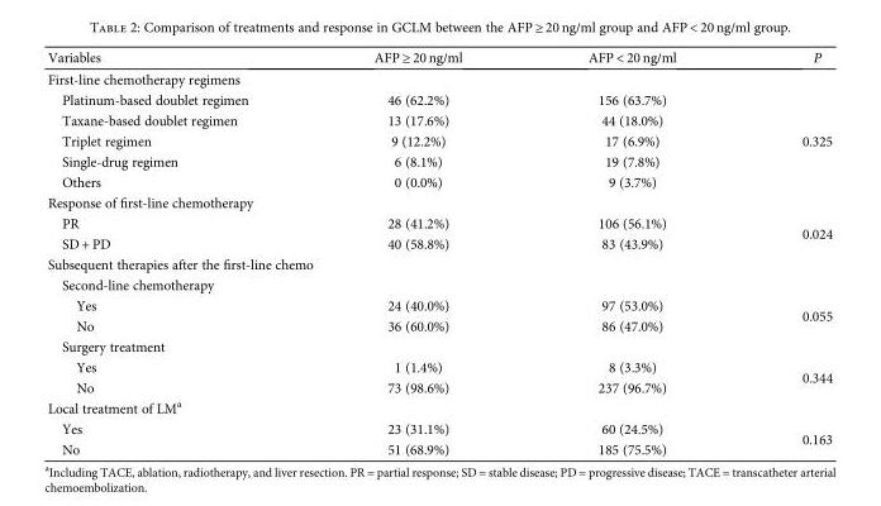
<table><thead><tr><td>Variables</td><td>AFP ≥ 20 ng/ml</td><td>AFP &lt; 20 ng/ml</td><td>P</td></tr></thead><tbody><tr><td colspan="4">First-line chemotherapy regimens</td></tr><tr><td>Platinum-based doublet regimen</td><td>46 (62.2%)</td><td>156 (63.7%)</td><td rowspan="5">0.325</td></tr><tr><td>Taxane-based doublet regimen</td><td>13 (17.6%)</td><td>44 (18.0%)</td></tr><tr><td>Triplet regimen</td><td>9 (12.2%)</td><td>17 (6.9%)</td></tr><tr><td>Single-drug regimen</td><td>6 (8.1%)</td><td>19 (7.8%)</td></tr><tr><td>Others</td><td>0 (0.0%)</td><td>9 (3.7%)</td></tr><tr><td colspan="4">Response of first-line chemotherapy</td></tr><tr><td>PR</td><td>28 (41.2%)</td><td>106 (56.1%)</td><td rowspan="2">0.024</td></tr><tr><td>SD + PD</td><td>40 (58.8%)</td><td>83 (43.9%)</td></tr><tr><td colspan="4">Subsequent therapies after the first-line chemo</td></tr><tr><td colspan="4">Second-line chemotherapy</td></tr><tr><td>Yes</td><td>24 (40.0%)</td><td>97 (53.0%)</td><td rowspan="2">0.055</td></tr><tr><td>No</td><td>36 (60.0%)</td><td>86 (47.0%)</td></tr><tr><td colspan="4">Surgery treatment</td></tr><tr><td>Yes</td><td>1 (1.4%)</td><td>8 (3.3%)</td><td rowspan="2">0.344</td></tr><tr><td>No</td><td>73 (98.6%)</td><td>237 (96.7%)</td></tr><tr><td colspan="4">Local treatment of LM<sup>a</sup></td></tr><tr><td>Yes</td><td>23 (31.1%)</td><td>60 (24.5%)</td><td rowspan="2">0.163</td></tr><tr><td>No</td><td>51 (68.9%)</td><td>185 (75.5%)</td></tr></tbody></table>